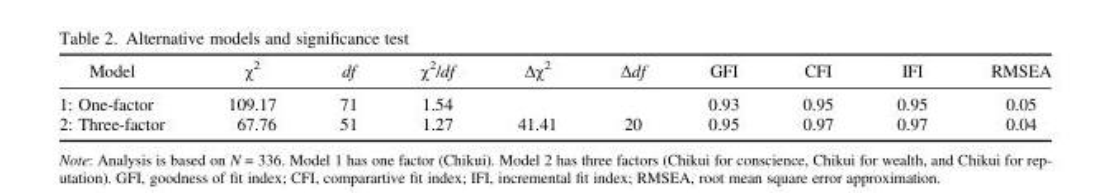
<table><thead><tr><td>Model</td><td>χ<sup>2</sup></td><td>df</td><td>χ<sup>2</sup>/df</td><td>Δχ<sup>2</sup></td><td>Δdf</td><td>GFI</td><td>CFI</td><td>IFI</td><td>RMSEA</td></tr></thead><tbody><tr><td>1: One-factor</td><td>109.17</td><td>71</td><td>1.54</td><td></td><td></td><td>0.93</td><td>0.95</td><td>0.95</td><td>0.05</td></tr><tr><td>2: Three-factor</td><td>67.76</td><td>51</td><td>1.27</td><td>41.41</td><td>20</td><td>0.95</td><td>0.97</td><td>0.97</td><td>0.04</td></tr></tbody></table>